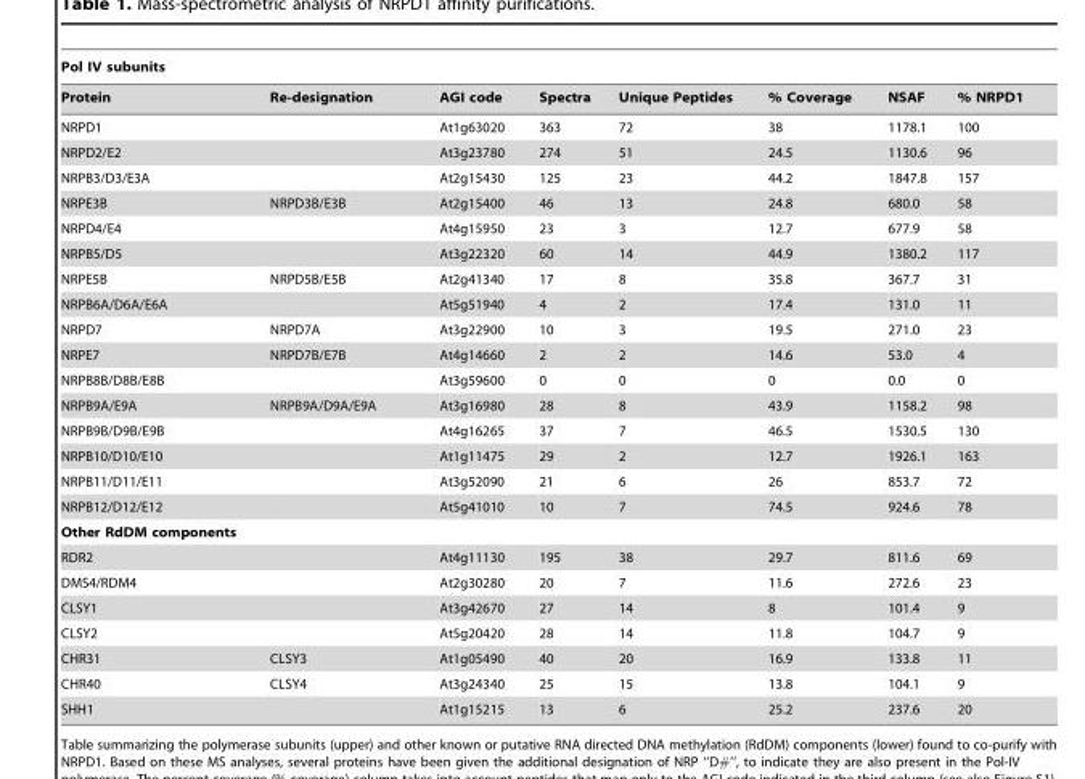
<table><thead><tr><td colspan="8">Pol IV subunits</td></tr><tr><td>Protein</td><td>Re-designation</td><td>AGI code</td><td>Spectra</td><td>Unique Peptides</td><td>% Coverage</td><td>NSAF</td><td>% NRPD1</td></tr></thead><tbody><tr><td>NRPD1</td><td></td><td>At1g63020</td><td>363</td><td>72</td><td>38</td><td>1178.1</td><td>100</td></tr><tr><td>NRPD2/E2</td><td></td><td>At3g23780</td><td>274</td><td>51</td><td>24.5</td><td>1130.6</td><td>96</td></tr><tr><td>NRPB3/D3/E3A</td><td></td><td>At2g15430</td><td>125</td><td>23</td><td>44.2</td><td>1847.8</td><td>157</td></tr><tr><td>NRPE3B</td><td>NRPD3B/E3B</td><td>At2g15400</td><td>46</td><td>13</td><td>24.8</td><td>680.0</td><td>58</td></tr><tr><td>NRPD4/E4</td><td></td><td>At4g15950</td><td>23</td><td>3</td><td>12.7</td><td>677.9</td><td>58</td></tr><tr><td>NRPB5/D5</td><td></td><td>At3g22320</td><td>60</td><td>14</td><td>44.9</td><td>1380.2</td><td>117</td></tr><tr><td>NRPE5B</td><td>NRPD5B/E5B</td><td>At2g41340</td><td>17</td><td>8</td><td>35.8</td><td>367.7</td><td>31</td></tr><tr><td>NRPB6A/D6A/E6A</td><td></td><td>At5g51940</td><td>4</td><td>2</td><td>17.4</td><td>131.0</td><td>11</td></tr><tr><td>NRPD7</td><td>NRPD7A</td><td>At3g22900</td><td>10</td><td>3</td><td>19.5</td><td>271.0</td><td>23</td></tr><tr><td>NRPE7</td><td>NRPD7B/E7B</td><td>At4g14660</td><td>2</td><td>2</td><td>14.6</td><td>53.0</td><td>4</td></tr><tr><td>NRPB8B/D8B/E8B</td><td></td><td>At3g59600</td><td>0</td><td>0</td><td>0</td><td>0.0</td><td>0</td></tr><tr><td>NRPB9A/E9A</td><td>NRPB9A/D9A/E9A</td><td>At3g16980</td><td>28</td><td>8</td><td>43.9</td><td>1158.2</td><td>98</td></tr><tr><td>NRPB9B/D9B/E9B</td><td></td><td>At4g16265</td><td>37</td><td>7</td><td>46.5</td><td>1530.5</td><td>130</td></tr><tr><td>NRPB10/D10/E10</td><td></td><td>At1g11475</td><td>29</td><td>2</td><td>12.7</td><td>1926.1</td><td>163</td></tr><tr><td>NRPB11/D11/E11</td><td></td><td>At3g52090</td><td>21</td><td>6</td><td>26</td><td>853.7</td><td>72</td></tr><tr><td>NRPB12/D12/E12</td><td></td><td>At5g41010</td><td>10</td><td>7</td><td>74.5</td><td>924.6</td><td>78</td></tr><tr><td colspan="8">Other RdDM components</td></tr><tr><td>RDR2</td><td></td><td>At4g11130</td><td>195</td><td>38</td><td>29.7</td><td>811.6</td><td>69</td></tr><tr><td>DMS4/RDM4</td><td></td><td>At2g30280</td><td>20</td><td>7</td><td>11.6</td><td>272.6</td><td>23</td></tr><tr><td>CLSY1</td><td></td><td>At3g42670</td><td>27</td><td>14</td><td>8</td><td>101.4</td><td>9</td></tr><tr><td>CLSY2</td><td></td><td>At5g20420</td><td>28</td><td>14</td><td>11.8</td><td>104.7</td><td>9</td></tr><tr><td>CHR31</td><td>CLSY3</td><td>At1g05490</td><td>40</td><td>20</td><td>16.9</td><td>133.8</td><td>11</td></tr><tr><td>CHR40</td><td>CLSY4</td><td>At3g24340</td><td>25</td><td>15</td><td>13.8</td><td>104.1</td><td>9</td></tr><tr><td>SHH1</td><td></td><td>At1g15215</td><td>13</td><td>6</td><td>25.2</td><td>237.6</td><td>20</td></tr></tbody></table>